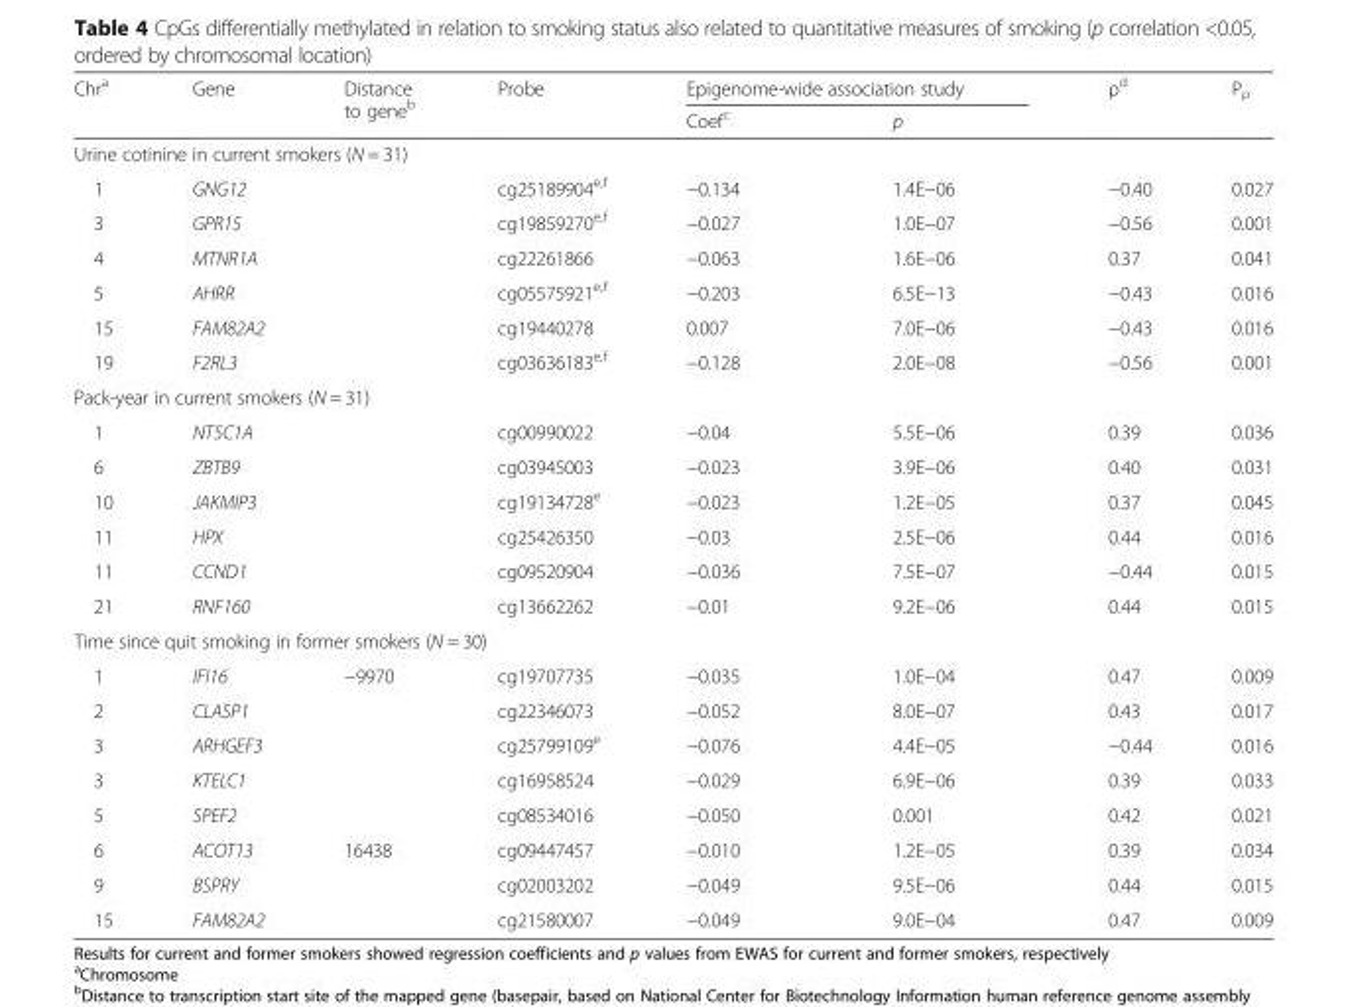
<table><thead><tr><td rowspan="2">Chr<sup>a</sup></td><td rowspan="2">Gene</td><td rowspan="2">Distance to gene<sup>b</sup></td><td rowspan="2">Probe</td><td colspan="2">Epigenome-wide association study</td><td rowspan="2">ρ<sup>d</sup></td><td rowspan="2">P<sub>ρ</sub></td></tr><tr><td>Coef<sup>c</sup></td><td>p</td></tr></thead><tbody><tr><td colspan="8">Urine cotinine in current smokers (N = 31)</td></tr><tr><td>1</td><td>GNG12</td><td></td><td>cg25189904<sup>e,f</sup></td><td>−0.134</td><td>1.4E−06</td><td>−0.40</td><td>0.027</td></tr><tr><td>3</td><td>GPR15</td><td></td><td>cg19859270<sup>e,f</sup></td><td>−0.027</td><td>1.0E−07</td><td>−0.56</td><td>0.001</td></tr><tr><td>4</td><td>MTNR1A</td><td></td><td>cg22261866</td><td>−0.063</td><td>1.6E−06</td><td>0.37</td><td>0.041</td></tr><tr><td>5</td><td>AHRR</td><td></td><td>cg05575921<sup>e,f</sup></td><td>−0.203</td><td>6.5E−13</td><td>−0.43</td><td>0.016</td></tr><tr><td>15</td><td>FAM82A2</td><td></td><td>cg19440278</td><td>0.007</td><td>7.0E−06</td><td>−0.43</td><td>0.016</td></tr><tr><td>19</td><td>F2RL3</td><td></td><td>cg03636183<sup>e,f</sup></td><td>−0.128</td><td>2.0E−08</td><td>−0.56</td><td>0.001</td></tr><tr><td colspan="8">Pack-year in current smokers (N = 31)</td></tr><tr><td>1</td><td>NT5C1A</td><td></td><td>cg00990022</td><td>−0.04</td><td>5.5E−06</td><td>0.39</td><td>0.036</td></tr><tr><td>6</td><td>ZBTB9</td><td></td><td>cg03945003</td><td>−0.023</td><td>3.9E−06</td><td>0.40</td><td>0.031</td></tr><tr><td>10</td><td>JAKMIP3</td><td></td><td>cg19134728<sup>e</sup></td><td>−0.023</td><td>1.2E−05</td><td>0.37</td><td>0.045</td></tr><tr><td>11</td><td>HPX</td><td></td><td>cg25426350</td><td>−0.03</td><td>2.5E−06</td><td>0.44</td><td>0.016</td></tr><tr><td>11</td><td>CCND1</td><td></td><td>cg09520904</td><td>−0.036</td><td>7.5E−07</td><td>−0.44</td><td>0.015</td></tr><tr><td>21</td><td>RNF160</td><td></td><td>cg13662262</td><td>−0.01</td><td>9.2E−06</td><td>0.44</td><td>0.015</td></tr><tr><td colspan="8">Time since quit smoking in former smokers (N = 30)</td></tr><tr><td>1</td><td>IFI16</td><td>−9970</td><td>cg19707735</td><td>−0.035</td><td>1.0E−04</td><td>0.47</td><td>0.009</td></tr><tr><td>2</td><td>CLASP1</td><td></td><td>cg22346073</td><td>−0.052</td><td>8.0E−07</td><td>0.43</td><td>0.017</td></tr><tr><td>3</td><td>ARHGEF3</td><td></td><td>cg25799109<sup>e</sup></td><td>−0.076</td><td>4.4E−05</td><td>−0.44</td><td>0.016</td></tr><tr><td>3</td><td>KTELC1</td><td></td><td>cg16958524</td><td>−0.029</td><td>6.9E−06</td><td>0.39</td><td>0.033</td></tr><tr><td>5</td><td>SPEF2</td><td></td><td>cg08534016</td><td>−0.050</td><td>0.001</td><td>0.42</td><td>0.021</td></tr><tr><td>6</td><td>ACOT13</td><td>16438</td><td>cg09447457</td><td>−0.010</td><td>1.2E−05</td><td>0.39</td><td>0.034</td></tr><tr><td>9</td><td>BSPRY</td><td></td><td>cg02003202</td><td>−0.049</td><td>9.5E−06</td><td>0.44</td><td>0.015</td></tr><tr><td>15</td><td>FAM82A2</td><td></td><td>cg21580007</td><td>−0.049</td><td>9.0E−04</td><td>0.47</td><td>0.009</td></tr></tbody></table>